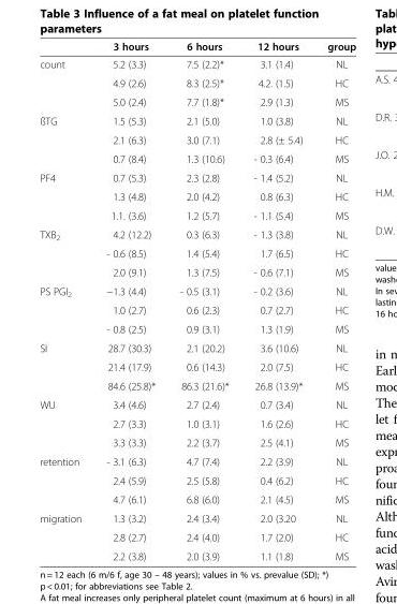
<table><thead><tr><td></td><td>3 hours</td><td>6 hours</td><td>12 hours</td><td>group</td></tr></thead><tbody><tr><td rowspan="3">count</td><td>5.2 (3.3)</td><td>7.5 (2.2)*</td><td>3.1 (1.4)</td><td>NL</td></tr><tr><td>4.9 (2.6)</td><td>8.3 (2.5)*</td><td>4.2. (1.5)</td><td>HC</td></tr><tr><td>5.0 (2.4)</td><td>7.7 (1.8)*</td><td>2.9 (1.3)</td><td>MS</td></tr><tr><td rowspan="3">ßTG</td><td>1.5 (5.3)</td><td>2.1 (5.0)</td><td>1.0 (3.8)</td><td>NL</td></tr><tr><td>2.1 (6.3)</td><td>3.0 (7.1)</td><td>2.8 (± 5.4)</td><td>HC</td></tr><tr><td>0.7 (8.4)</td><td>1.3 (10.6)</td><td>- 0.3 (6.4)</td><td>MS</td></tr><tr><td rowspan="3">PF4</td><td>0.7 (5.3)</td><td>2.3 (2.8)</td><td>- 1.4 (5.2)</td><td>NL</td></tr><tr><td>1.3 (4.8)</td><td>2.0 (4.2)</td><td>0.8 (6.3)</td><td>HC</td></tr><tr><td>1.1. (3.6)</td><td>1.2 (5.7)</td><td>- 1.1 (5.4)</td><td>MS</td></tr><tr><td rowspan="3">TXB<sub>2</sub></td><td>4.2 (12.2)</td><td>0.3 (6.3)</td><td>- 1.3 (3.8)</td><td>NL</td></tr><tr><td>- 0.6 (8.5)</td><td>1.4 (5.4)</td><td>1.7 (6.5)</td><td>HC</td></tr><tr><td>2.0 (9.1)</td><td>1.3 (7.5)</td><td>- 0.6 (7.1)</td><td>MS</td></tr><tr><td rowspan="3">PS PGI<sub>2</sub></td><td>−1.3 (4.4)</td><td>- 0.5 (3.1)</td><td>- 0.2 (3.6)</td><td>NL</td></tr><tr><td>1.0 (2.7)</td><td>0.6 (2.3)</td><td>0.7 (2.7)</td><td>HC</td></tr><tr><td>- 0.8 (2.5)</td><td>0.9 (3.1)</td><td>1.3 (1.9)</td><td>MS</td></tr><tr><td rowspan="3">SI</td><td>28.7 (30.3)</td><td>2.1 (20.2)</td><td>3.6 (10.6)</td><td>NL</td></tr><tr><td>21.4 (17.9)</td><td>0.6 (14.3)</td><td>2.0 (7.5)</td><td>HC</td></tr><tr><td>84.6 (25.8)*</td><td>86.3 (21.6)*</td><td>26.8 (13.9)*</td><td>MS</td></tr><tr><td rowspan="3">WU</td><td>3.4 (4.6)</td><td>2.7 (2.4)</td><td>0.7 (3.4)</td><td>NL</td></tr><tr><td>2.7 (3.3)</td><td>1.0 (3.1)</td><td>1.6 (2.6)</td><td>HC</td></tr><tr><td>3.3 (3.3)</td><td>2.2 (3.7)</td><td>2.5 (4.1)</td><td>MS</td></tr><tr><td rowspan="3">retention</td><td>- 3.1 (6.3)</td><td>4.7 (7.4)</td><td>2.2 (3.9)</td><td>NL</td></tr><tr><td>2.4 (5.9)</td><td>2.5 (5.8)</td><td>0.4 (6.2)</td><td>HC</td></tr><tr><td>4.7 (6.1)</td><td>6.8 (6.0)</td><td>2.1 (4.5)</td><td>MS</td></tr><tr><td rowspan="3">migration</td><td>1.3 (3.2)</td><td>2.4 (3.4)</td><td>2.0 (3.20</td><td>NL</td></tr><tr><td>2.8 (2.7)</td><td>2.4 (4.0)</td><td>1.7 (2.0)</td><td>HC</td></tr><tr><td>2.2 (3.8)</td><td>2.0 (3.9)</td><td>1.1 (1.8)</td><td>MS</td></tr></tbody></table>